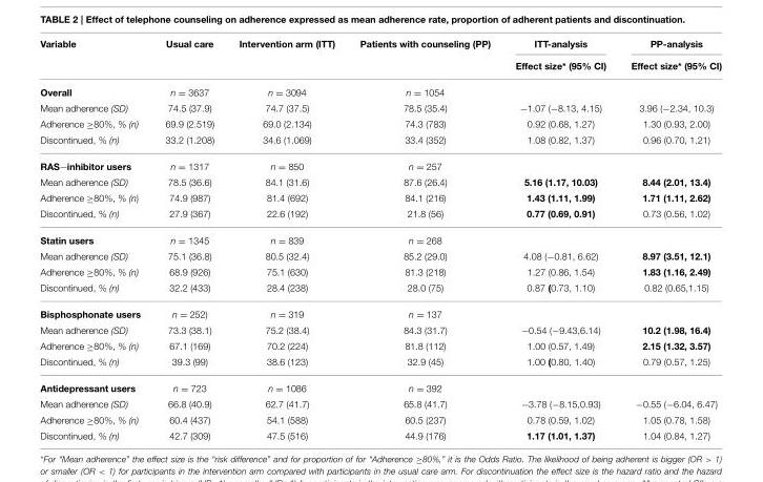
<table><thead><tr><td rowspan="2">Variable</td><td rowspan="2">Usual care</td><td rowspan="2">Intervention arm (ITT)</td><td rowspan="2">Patients with counseling (PP)</td><td rowspan="2">ITT-analysis Effect size* (95% CI)</td><td rowspan="2">PP-analysis Effect size* (95% CI)</td></tr><tr></tr></thead><tbody><tr><td>Overall</td><td>n = 3637</td><td>n = 3094</td><td>n = 1054</td><td></td><td></td></tr><tr><td>Mean adherence (SD)</td><td>74.5 (37.9)</td><td>74.7 (37.5)</td><td>78.5 (35.4)</td><td>−1.07 (−8.13, 4.15)</td><td>3.96 (−2.34, 10.3)</td></tr><tr><td>Adherence ≥80%, % (n)</td><td>69.9 (2.519)</td><td>69.0 (2.134)</td><td>74.3 (783)</td><td>0.92 (0.68, 1.27)</td><td>1.30 (0.93, 2.00)</td></tr><tr><td>Discontinued, % (n)</td><td>33.2 (1.208)</td><td>34.6 (1.069)</td><td>33.4 (352)</td><td>1.08 (0.82, 1.37)</td><td>0.96 (0.70, 1.21)</td></tr><tr><td>RAS−inhibitor users</td><td>n = 1317</td><td>n = 850</td><td>n = 257</td><td></td><td></td></tr><tr><td>Mean adherence (SD)</td><td>78.5 (36.6)</td><td>84.1 (31.6)</td><td>87.6 (26.4)</td><td>5.16 (1.17, 10.03)</td><td>8.44 (2.01, 13.4)</td></tr><tr><td>Adherence ≥80%, % (n)</td><td>74.9 (987)</td><td>81.4 (692)</td><td>84.1 (216)</td><td>1.43 (1.11, 1.99)</td><td>1.71 (1.11, 2.62)</td></tr><tr><td>Discontinued, % (n)</td><td>27.9 (367)</td><td>22.6 (192)</td><td>21.8 (56)</td><td>0.77 (0.69, 0.91)</td><td>0.73 (0.56, 1.02)</td></tr><tr><td>Statin users</td><td>n = 1345</td><td>n = 839</td><td>n = 268</td><td></td><td></td></tr><tr><td>Mean adherence (SD)</td><td>75.1 (36.8)</td><td>80.5 (32.4)</td><td>85.2 (29.0)</td><td>4.08 (−0.81, 6.62)</td><td>8.97 (3.51, 12.1)</td></tr><tr><td>Adherence ≥80%, % (n)</td><td>68.9 (926)</td><td>75.1 (630)</td><td>81.3 (218)</td><td>1.27 (0.86, 1.54)</td><td>1.83 (1.16, 2.49)</td></tr><tr><td>Discontinued, % (n)</td><td>32.2 (433)</td><td>28.4 (238)</td><td>28.0 (75)</td><td>0.87 (0.73, 1.10)</td><td>0.82 (0.65,1.15)</td></tr><tr><td>Bisphosphonate users</td><td>n = 252)</td><td>n = 319</td><td>n = 137</td><td></td><td></td></tr><tr><td>Mean adherence (SD)</td><td>73.3 (38.1)</td><td>75.2 (38.4)</td><td>84.3 (31.7)</td><td>−0.54 (−9.43,6.14)</td><td>10.2 (1.98, 16.4)</td></tr><tr><td>Adherence ≥80%, % (n)</td><td>67.1 (169)</td><td>70.2 (224)</td><td>81.8 (112)</td><td>1.00 (0.57, 1.49)</td><td>2.15 (1.32, 3.57)</td></tr><tr><td>Discontinued, % (n)</td><td>39.3 (99)</td><td>38.6 (123)</td><td>32.9 (45)</td><td>1.00 (0.80, 1.40)</td><td>0.79 (0.57, 1.25)</td></tr><tr><td>Antidepressant users</td><td>n = 723</td><td>n = 1086</td><td>n = 392</td><td></td><td></td></tr><tr><td>Mean adherence (SD)</td><td>66.8 (40.9)</td><td>62.7 (41.7)</td><td>65.8 (41.7)</td><td>−3.78 (−8.15,0.93)</td><td>−0.55 (−6.04, 6.47)</td></tr><tr><td>Adherence ≥80%, % (n)</td><td>60.4 (437)</td><td>54.1 (588)</td><td>60.5 (237)</td><td>0.78 (0.59, 1.02)</td><td>1.05 (0.78, 1.58)</td></tr><tr><td>Discontinued, % (n)</td><td>42.7 (309)</td><td>47.5 (516)</td><td>44.9 (176)</td><td>1.17 (1.01, 1.37)</td><td>1.04 (0.84, 1.27)</td></tr></tbody></table>